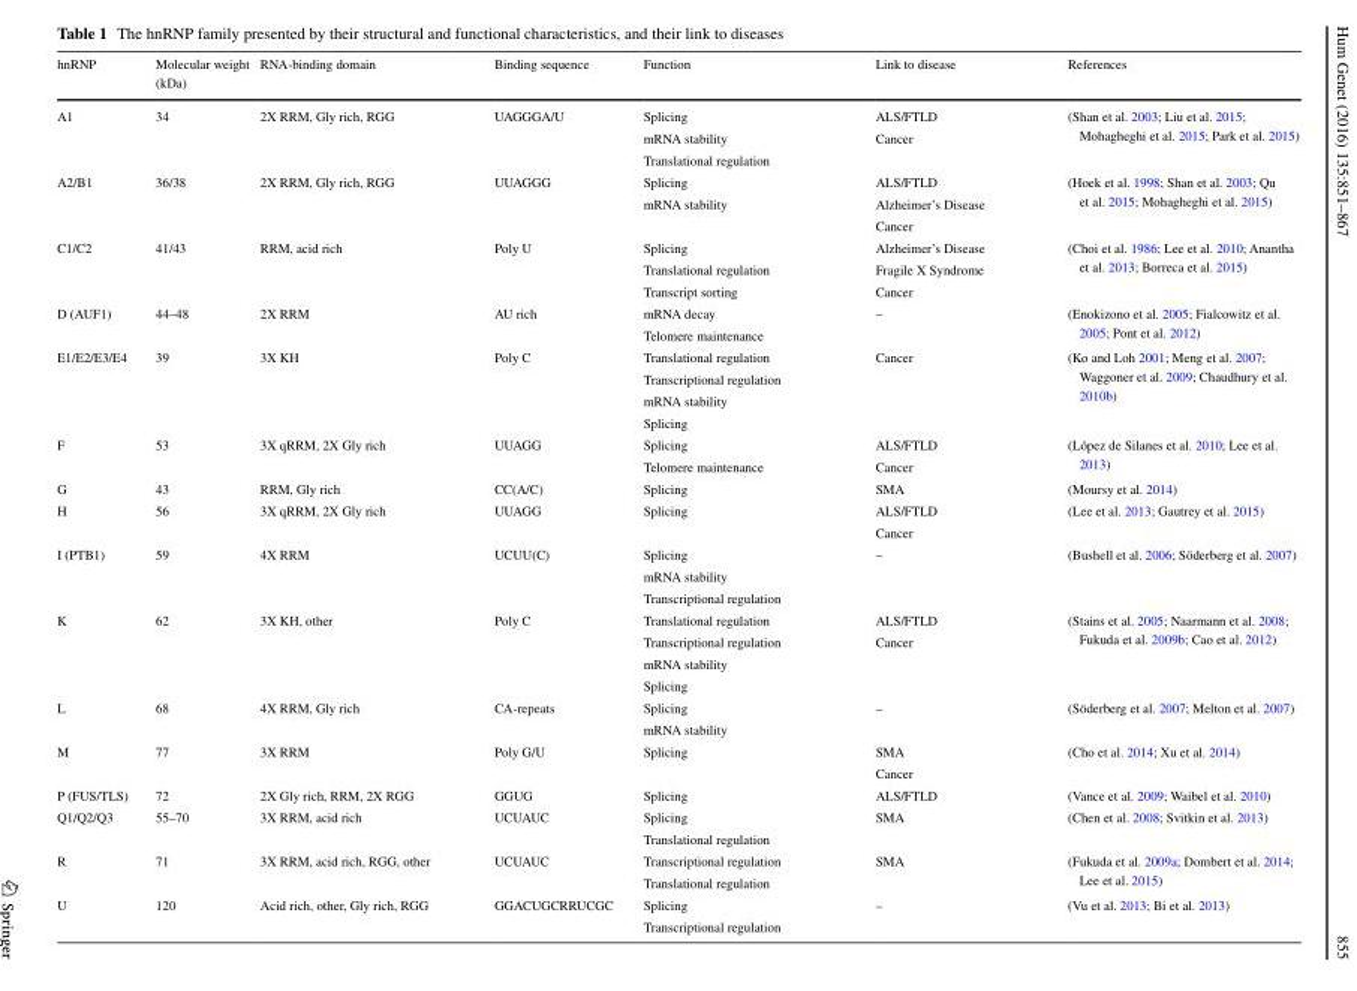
<table><thead><tr><td>hnRNP</td><td>Molecular weight (kDa)</td><td>RNA-binding domain</td><td>Binding sequence</td><td>Function</td><td>Link to disease</td><td>References</td></tr></thead><tbody><tr><td rowspan="3">A1</td><td>34</td><td>2X RRM, Gly rich, RGG</td><td>UAGGGA/U</td><td>Splicing</td><td>ALS/FTLD</td><td rowspan="3">(Shan et al. 2003; Liu et al. 2015; Mohagheghi et al. 2015; Park et al. 2015)</td></tr><tr><td></td><td></td><td></td><td>mRNA stability</td><td>Cancer</td></tr><tr><td></td><td></td><td></td><td>Translational regulation</td><td></td></tr><tr><td rowspan="3">A2/B1</td><td>36/38</td><td>2X RRM, Gly rich, RGG</td><td>UUAGGG</td><td>Splicing</td><td>ALS/FTLD</td><td rowspan="3">(Hoek et al. 1998; Shan et al. 2003; Qu et al. 2015; Mohagheghi et al. 2015)</td></tr><tr><td></td><td></td><td></td><td>mRNA stability</td><td>Alzheimer’s Disease</td></tr><tr><td></td><td></td><td></td><td></td><td>Cancer</td></tr><tr><td rowspan="3">C1/C2</td><td>41/43</td><td>RRM, acid rich</td><td>Poly U</td><td>Splicing</td><td>Alzheimer’s Disease</td><td rowspan="3">(Choi et al. 1986; Lee et al. 2010; Anantha et al. 2013; Borreca et al. 2015)</td></tr><tr><td></td><td></td><td></td><td>Translational regulation</td><td>Fragile X Syndrome</td></tr><tr><td></td><td></td><td></td><td>Transcript sorting</td><td>Cancer</td></tr><tr><td rowspan="2">D (AUF1)</td><td>44–48</td><td>2X RRM</td><td>AU rich</td><td>mRNA decay</td><td>–</td><td rowspan="2">(Enokizono et al. 2005; Fialcowitz et al. 2005; Pont et al. 2012)</td></tr><tr><td></td><td></td><td></td><td>Telomere maintenance</td><td></td></tr><tr><td rowspan="4">E1/E2/E3/E4</td><td>39</td><td>3X KH</td><td>Poly C</td><td>Translational regulation</td><td>Cancer</td><td rowspan="4">(Ko and Loh 2001; Meng et al. 2007; Waggoner et al. 2009; Chaudhury et al. 2010b)</td></tr><tr><td></td><td></td><td></td><td>Transcriptional regulation</td><td></td></tr><tr><td></td><td></td><td></td><td>mRNA stability</td><td></td></tr><tr><td></td><td></td><td></td><td>Splicing</td><td></td></tr><tr><td rowspan="2">F</td><td>53</td><td>3X qRRM, 2X Gly rich</td><td>UUAGG</td><td>Splicing</td><td>ALS/FTLD</td><td rowspan="2">(López de Silanes et al. 2010; Lee et al. 2013)</td></tr><tr><td></td><td></td><td></td><td>Telomere maintenance</td><td>Cancer</td></tr><tr><td>G</td><td>43</td><td>RRM, Gly rich</td><td>CC(A/C)</td><td>Splicing</td><td>SMA</td><td>(Moursy et al. 2014)</td></tr><tr><td rowspan="2">H</td><td>56</td><td>3X qRRM, 2X Gly rich</td><td>UUAGG</td><td>Splicing</td><td>ALS/FTLD</td><td rowspan="2">(Lee et al. 2013; Gautrey et al. 2015)</td></tr><tr><td></td><td></td><td></td><td></td><td>Cancer</td></tr><tr><td rowspan="3">I (PTB1)</td><td>59</td><td>4X RRM</td><td>UCUU(C)</td><td>Splicing</td><td>–</td><td rowspan="3">(Bushell et al. 2006; Söderberg et al. 2007)</td></tr><tr><td></td><td></td><td></td><td>mRNA stability</td><td></td></tr><tr><td></td><td></td><td></td><td>Transcriptional regulation</td><td></td></tr><tr><td rowspan="4">K</td><td>62</td><td>3X KH, other</td><td>Poly C</td><td>Translational regulation</td><td>ALS/FTLD</td><td rowspan="4">(Stains et al. 2005; Naarmann et al. 2008; Fukuda et al. 2009b; Cao et al. 2012)</td></tr><tr><td></td><td></td><td></td><td>Transcriptional regulation</td><td>Cancer</td></tr><tr><td></td><td></td><td></td><td>mRNA stability</td><td></td></tr><tr><td></td><td></td><td></td><td>Splicing</td><td></td></tr><tr><td rowspan="2">L</td><td>68</td><td>4X RRM, Gly rich</td><td>CA-repeats</td><td>Splicing</td><td>–</td><td rowspan="2">(Söderberg et al. 2007; Melton et al. 2007)</td></tr><tr><td></td><td></td><td></td><td>mRNA stability</td><td></td></tr><tr><td rowspan="2">M</td><td>77</td><td>3X RRM</td><td>Poly G/U</td><td>Splicing</td><td>SMA</td><td rowspan="2">(Cho et al. 2014; Xu et al. 2014)</td></tr><tr><td></td><td></td><td></td><td></td><td>Cancer</td></tr><tr><td>P (FUS/TLS)</td><td>72</td><td>2X Gly rich, RRM, 2X RGG</td><td>GGUG</td><td>Splicing</td><td>ALS/FTLD</td><td>(Vance et al. 2009; Waibel et al. 2010)</td></tr><tr><td rowspan="2">Q1/Q2/Q3</td><td>55–70</td><td>3X RRM, acid rich</td><td>UCUAUC</td><td>Splicing</td><td>SMA</td><td rowspan="2">(Chen et al. 2008; Svitkin et al. 2013)</td></tr><tr><td></td><td></td><td></td><td>Translational regulation</td><td></td></tr><tr><td rowspan="2">R</td><td>71</td><td>3X RRM, acid rich, RGG, other</td><td>UCUAUC</td><td>Transcriptional regulation</td><td>SMA</td><td rowspan="2">(Fukuda et al. 2009a; Dombert et al. 2014; Lee et al. 2015)</td></tr><tr><td></td><td></td><td></td><td>Translational regulation</td><td></td></tr><tr><td rowspan="2">U</td><td>120</td><td>Acid rich, other, Gly rich, RGG</td><td>GGACUGCRRUCGC</td><td>Splicing</td><td>–</td><td rowspan="2">(Vu et al. 2013; Bi et al. 2013)</td></tr><tr><td></td><td></td><td></td><td>Transcriptional regulation</td><td></td></tr></tbody></table>